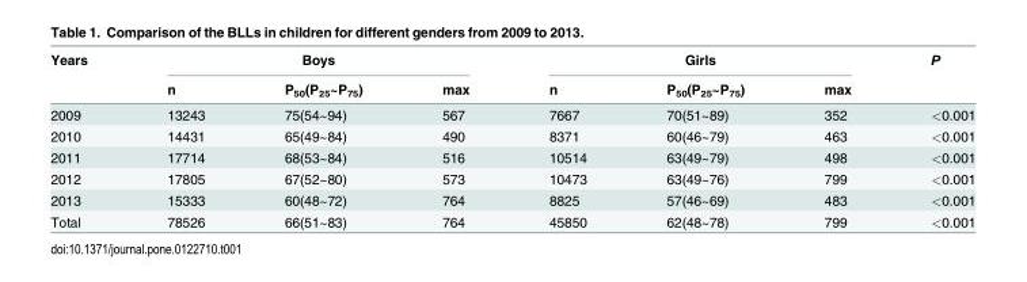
<table><thead><tr><td rowspan="2">Years</td><td colspan="3">Boys</td><td colspan="3">Girls</td><td rowspan="2">P</td></tr><tr><td>n</td><td>P<sub>50</sub>(P<sub>25</sub>~P<sub>75</sub>)</td><td>max</td><td>n</td><td>P<sub>50</sub>(P<sub>25</sub>~P<sub>75</sub>)</td><td>max</td></tr></thead><tbody><tr><td>2009</td><td>13243</td><td>75(54~94)</td><td>567</td><td>7667</td><td>70(51~89)</td><td>352</td><td>&lt;0.001</td></tr><tr><td>2010</td><td>14431</td><td>65(49~84)</td><td>490</td><td>8371</td><td>60(46~79)</td><td>463</td><td>&lt;0.001</td></tr><tr><td>2011</td><td>17714</td><td>68(53~84)</td><td>516</td><td>10514</td><td>63(49~79)</td><td>498</td><td>&lt;0.001</td></tr><tr><td>2012</td><td>17805</td><td>67(52~80)</td><td>573</td><td>10473</td><td>63(49~76)</td><td>799</td><td>&lt;0.001</td></tr><tr><td>2013</td><td>15333</td><td>60(48~72)</td><td>764</td><td>8825</td><td>57(46~69)</td><td>483</td><td>&lt;0.001</td></tr><tr><td>Total</td><td>78526</td><td>66(51~83)</td><td>764</td><td>45850</td><td>62(48~78)</td><td>799</td><td>&lt;0.001</td></tr></tbody></table>